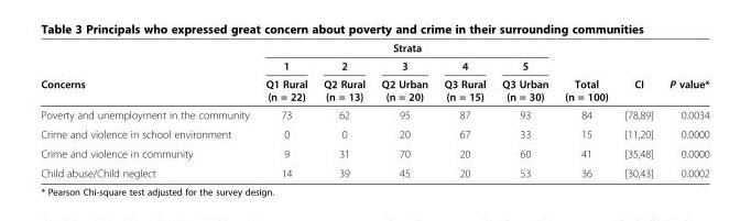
<table><thead><tr><td rowspan="3">Concerns</td><td colspan="5">Strata</td><td rowspan="3">Total (n = 100)</td><td rowspan="3">CI</td><td rowspan="3">P value*</td></tr><tr><td rowspan="2">1 Q1 Rural (n = 22)</td><td rowspan="2">2 Q2 Rural (n = 13)</td><td rowspan="2">3 Q2 Urban (n = 20)</td><td rowspan="2">4 Q3 Rural (n = 15)</td><td rowspan="2">5 Q3 Urban (n = 30)</td></tr><tr></tr></thead><tbody><tr><td>Poverty and unemployment in the community</td><td>73</td><td>62</td><td>95</td><td>87</td><td>93</td><td>84</td><td>[78,89]</td><td>0.0034</td></tr><tr><td>Crime and violence in school environment</td><td>0</td><td>0</td><td>20</td><td>67</td><td>33</td><td>15</td><td>[11,20]</td><td>0.0000</td></tr><tr><td>Crime and violence in community</td><td>9</td><td>31</td><td>70</td><td>20</td><td>60</td><td>41</td><td>[35,48]</td><td>0.0000</td></tr><tr><td>Child abuse/Child neglect</td><td>14</td><td>39</td><td>45</td><td>20</td><td>53</td><td>36</td><td>[30,43]</td><td>0.0002</td></tr></tbody></table>